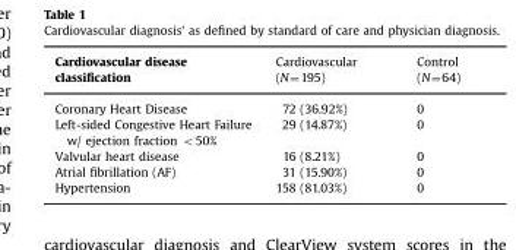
<table><thead><tr><td>Cardiovascular disease classification</td><td>Cardiovascular (N=195)</td><td>Control (N=64)</td></tr></thead><tbody><tr><td>Coronary Heart Disease</td><td>72 (36.92%)</td><td>0</td></tr><tr><td>Left-sided Congestive Heart Failure w/ ejection fraction &lt;50%</td><td>29 (14.87%)</td><td>0</td></tr><tr><td>Valvular heart disease</td><td>16 (8.21%)</td><td>0</td></tr><tr><td>Atrial fibrillation (AF)</td><td>31 (15.90%)</td><td>0</td></tr><tr><td>Hypertension</td><td>158 (81.03%)</td><td>0</td></tr></tbody></table>